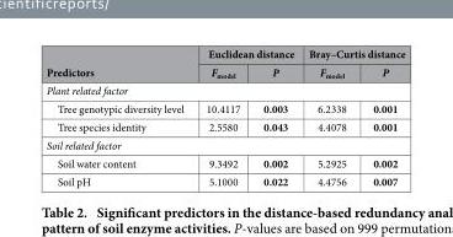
<table><thead><tr><td rowspan="2">Predictors</td><td colspan="2">Euclidean distance</td><td colspan="2">Bray–Curtis distance</td></tr><tr><td>F<sub>model</sub></td><td>P</td><td>F<sub>model</sub></td><td>P</td></tr></thead><tbody><tr><td colspan="5">Plant related factor</td></tr><tr><td>Tree genotypic diversity level</td><td>10.4117</td><td>0.003</td><td>6.2338</td><td>0.001</td></tr><tr><td>Tree species identity</td><td>2.5580</td><td>0.043</td><td>4.4078</td><td>0.001</td></tr><tr><td colspan="5">Soil related factor</td></tr><tr><td>Soil water content</td><td>9.3492</td><td>0.002</td><td>5.2925</td><td>0.002</td></tr><tr><td>Soil pH</td><td>5.1000</td><td>0.022</td><td>4.4756</td><td>0.007</td></tr></tbody></table>